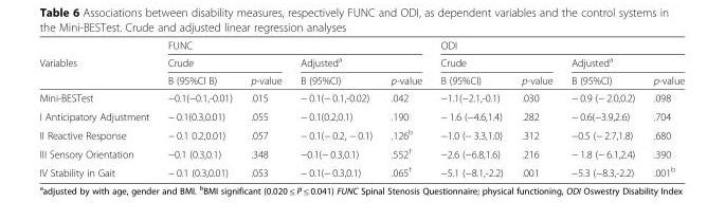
<table><thead><tr><td rowspan="3">Variables</td><td colspan="4">FUNC</td><td colspan="4">ODI</td></tr><tr><td colspan="2">Crude</td><td colspan="2">Adjusted<sup>a</sup></td><td colspan="2">Crude</td><td colspan="2">Adjusted<sup>a</sup></td></tr><tr><td>B (95%CI B)</td><td>p-value</td><td>B (95%CI)</td><td>p-value</td><td>B (95%CI)</td><td>p-value</td><td>B (95%CI)</td><td>p-value</td></tr></thead><tbody><tr><td>Mini-BESTest</td><td>−0.1(−0.1,-0.01)</td><td>.015</td><td>− 0.1(− 0.1,-0.02)</td><td>.042</td><td>−1.1(−2.1,-0.1)</td><td>.030</td><td>− 0.9 (− 2.0,0.2)</td><td>.098</td></tr><tr><td>I Anticipatory Adjustment</td><td>− 0.1(0.3,0.01)</td><td>.055</td><td>− 0.1(0.2,0.1)</td><td>.190</td><td>− 1.6 (−4.6,1.4)</td><td>.282</td><td>− 0.6(−3.9,2.6)</td><td>.704</td></tr><tr><td>II Reactive Response</td><td>− 0.1 0.2,0.01)</td><td>.057</td><td>− 0.1(− 0.2, − 0.1)</td><td>.126<sup>b</sup></td><td>−1.0 (− 3.3,1.0)</td><td>.312</td><td>−0.5 (− 2.7,1.8)</td><td>.680</td></tr><tr><td>III Sensory Orientation</td><td>−0.1 (0.3,0.1)</td><td>.348</td><td>−0.1(− 0.3,0.1)</td><td>.552<sup>†</sup></td><td>−2.6 (−6.8,1.6)</td><td>.216</td><td>− 1.8 (− 6.1,2.4)</td><td>.390</td></tr><tr><td>IV Stability in Gait</td><td>− 0.1 (0.3,0.01)</td><td>.053</td><td>− 0.1(− 0.3,0.1)</td><td>.065<sup>†</sup></td><td>−5.1 (−8.1,-2.2)</td><td>.001</td><td>−5.3 (−8.3,-2.2)</td><td>.001<sup>b</sup></td></tr></tbody></table>